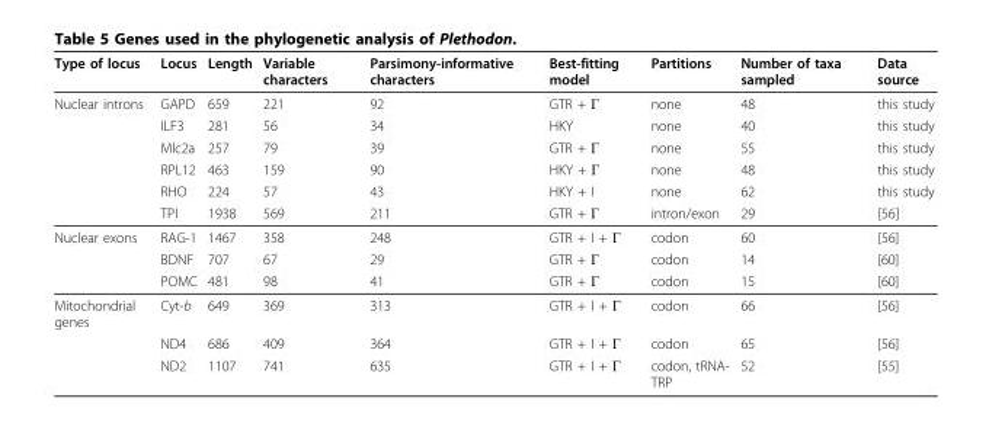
<table><thead><tr><td>Type of locus</td><td>Locus</td><td>Length</td><td>Variable characters</td><td>Parsimony-informative characters</td><td>Best-fitting model</td><td>Partitions</td><td>Number of taxa sampled</td><td>Data source</td></tr></thead><tbody><tr><td rowspan="6">Nuclear introns</td><td>GAPD</td><td>659</td><td>221</td><td>92</td><td>GTR + Γ</td><td>none</td><td>48</td><td>this study</td></tr><tr><td>ILF3</td><td>281</td><td>56</td><td>34</td><td>HKY</td><td>none</td><td>40</td><td>this study</td></tr><tr><td>Mlc2a</td><td>257</td><td>79</td><td>39</td><td>GTR + Γ</td><td>none</td><td>55</td><td>this study</td></tr><tr><td>RPL12</td><td>463</td><td>159</td><td>90</td><td>HKY + Γ</td><td>none</td><td>48</td><td>this study</td></tr><tr><td>RHO</td><td>224</td><td>57</td><td>43</td><td>HKY + I</td><td>none</td><td>62</td><td>this study</td></tr><tr><td>TPI</td><td>1938</td><td>569</td><td>211</td><td>GTR + Γ</td><td>intron/exon</td><td>29</td><td>[56]</td></tr><tr><td rowspan="3">Nuclear exons</td><td>RAG-1</td><td>1467</td><td>358</td><td>248</td><td>GTR + I + Γ</td><td>codon</td><td>60</td><td>[56]</td></tr><tr><td>BDNF</td><td>707</td><td>67</td><td>29</td><td>GTR + Γ</td><td>codon</td><td>14</td><td>[60]</td></tr><tr><td>POMC</td><td>481</td><td>98</td><td>41</td><td>GTR + Γ</td><td>codon</td><td>15</td><td>[60]</td></tr><tr><td rowspan="3">Mitochondrial genes</td><td>Cyt-b</td><td>649</td><td>369</td><td>313</td><td>GTR + I + Γ</td><td>codon</td><td>66</td><td>[56]</td></tr><tr><td>ND4</td><td>686</td><td>409</td><td>364</td><td>GTR + I + Γ</td><td>codon</td><td>65</td><td>[56]</td></tr><tr><td>ND2</td><td>1107</td><td>741</td><td>635</td><td>GTR + I + Γ</td><td>codon, tRNA- TRP</td><td>52</td><td>[55]</td></tr></tbody></table>